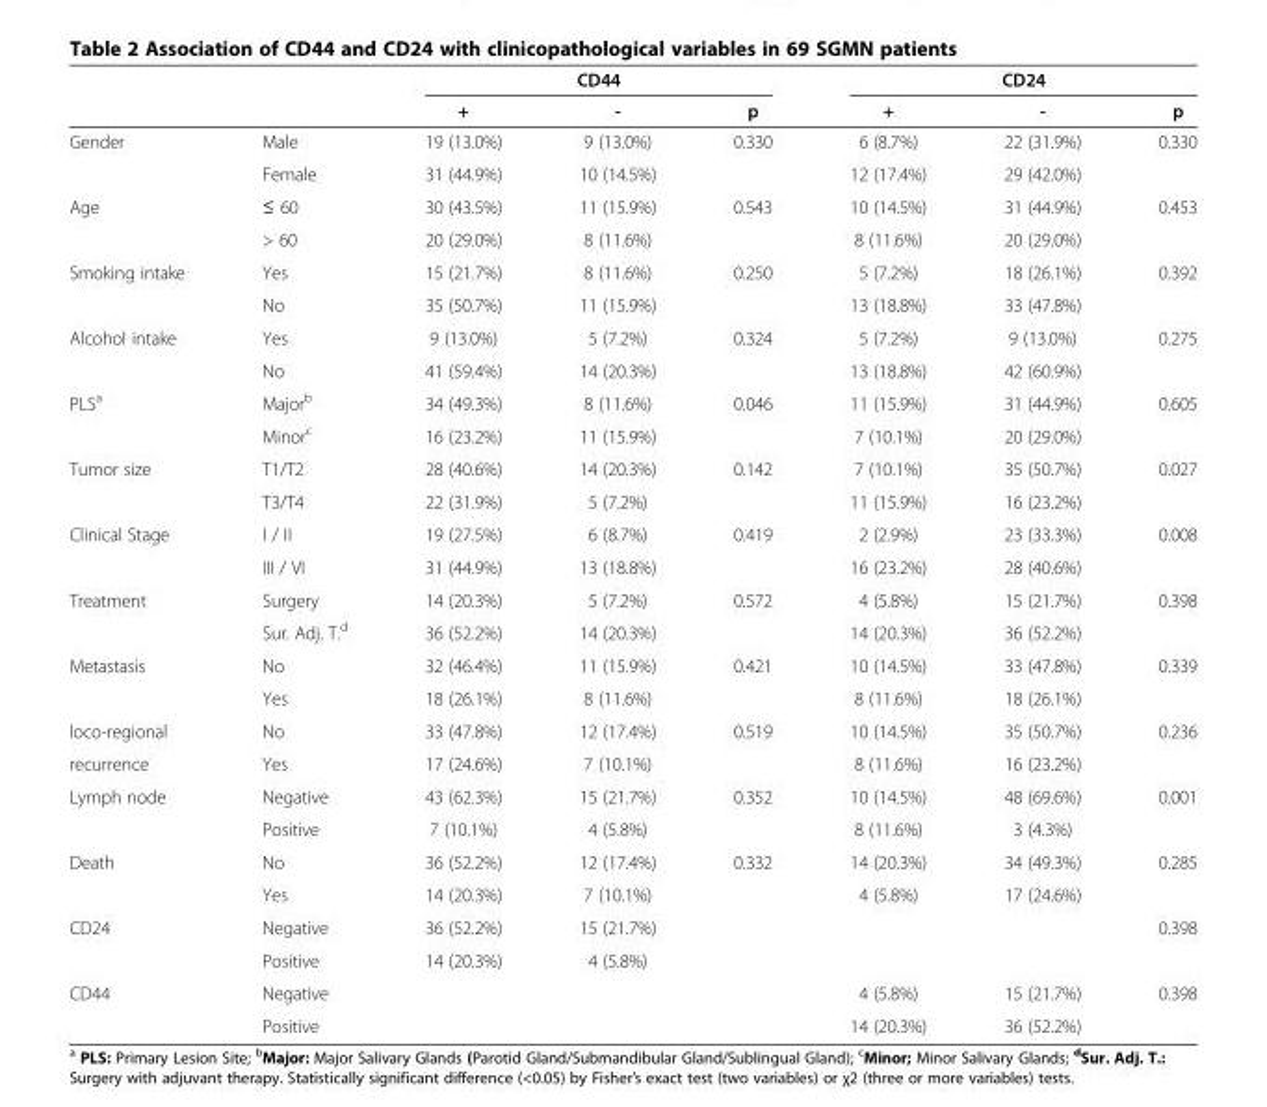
<table><thead><tr><td rowspan="2"></td><td rowspan="2"></td><td colspan="3">CD44</td><td colspan="3">CD24</td></tr><tr><td>+</td><td>-</td><td>p</td><td>+</td><td>-</td><td>p</td></tr></thead><tbody><tr><td rowspan="2">Gender</td><td>Male</td><td>19 (13.0%)</td><td>9 (13.0%)</td><td>0.330</td><td>6 (8.7%)</td><td>22 (31.9%)</td><td>0.330</td></tr><tr><td>Female</td><td>31 (44.9%)</td><td>10 (14.5%)</td><td></td><td>12 (17.4%)</td><td>29 (42.0%)</td><td></td></tr><tr><td rowspan="2">Age</td><td>≤ 60</td><td>30 (43.5%)</td><td>11 (15.9%)</td><td>0.543</td><td>10 (14.5%)</td><td>31 (44.9%)</td><td>0.453</td></tr><tr><td>&gt; 60</td><td>20 (29.0%)</td><td>8 (11.6%)</td><td></td><td>8 (11.6%)</td><td>20 (29.0%)</td><td></td></tr><tr><td rowspan="2">Smoking intake</td><td>Yes</td><td>15 (21.7%)</td><td>8 (11.6%)</td><td>0.250</td><td>5 (7.2%)</td><td>18 (26.1%)</td><td>0.392</td></tr><tr><td>No</td><td>35 (50.7%)</td><td>11 (15.9%)</td><td></td><td>13 (18.8%)</td><td>33 (47.8%)</td><td></td></tr><tr><td rowspan="2">Alcohol intake</td><td>Yes</td><td>9 (13.0%)</td><td>5 (7.2%)</td><td>0.324</td><td>5 (7.2%)</td><td>9 (13.0%)</td><td>0.275</td></tr><tr><td>No</td><td>41 (59.4%)</td><td>14 (20.3%)</td><td></td><td>13 (18.8%)</td><td>42 (60.9%)</td><td></td></tr><tr><td rowspan="2">PLS<sup>a</sup></td><td>Major<sup>b</sup></td><td>34 (49.3%)</td><td>8 (11.6%)</td><td>0.046</td><td>11 (15.9%)</td><td>31 (44.9%)</td><td>0.605</td></tr><tr><td>Minor<sup>c</sup></td><td>16 (23.2%)</td><td>11 (15.9%)</td><td></td><td>7 (10.1%)</td><td>20 (29.0%)</td><td></td></tr><tr><td rowspan="2">Tumor size</td><td>T1/T2</td><td>28 (40.6%)</td><td>14 (20.3%)</td><td>0.142</td><td>7 (10.1%)</td><td>35 (50.7%)</td><td>0.027</td></tr><tr><td>T3/T4</td><td>22 (31.9%)</td><td>5 (7.2%)</td><td></td><td>11 (15.9%)</td><td>16 (23.2%)</td><td></td></tr><tr><td rowspan="2">Clinical Stage</td><td>I / II</td><td>19 (27.5%)</td><td>6 (8.7%)</td><td>0.419</td><td>2 (2.9%)</td><td>23 (33.3%)</td><td>0.008</td></tr><tr><td>III / VI</td><td>31 (44.9%)</td><td>13 (18.8%)</td><td></td><td>16 (23.2%)</td><td>28 (40.6%)</td><td></td></tr><tr><td rowspan="2">Treatment</td><td>Surgery</td><td>14 (20.3%)</td><td>5 (7.2%)</td><td>0.572</td><td>4 (5.8%)</td><td>15 (21.7%)</td><td>0.398</td></tr><tr><td>Sur. Adj. T.<sup>d</sup></td><td>36 (52.2%)</td><td>14 (20.3%)</td><td></td><td>14 (20.3%)</td><td>36 (52.2%)</td><td></td></tr><tr><td rowspan="2">Metastasis</td><td>No</td><td>32 (46.4%)</td><td>11 (15.9%)</td><td>0.421</td><td>10 (14.5%)</td><td>33 (47.8%)</td><td>0.339</td></tr><tr><td>Yes</td><td>18 (26.1%)</td><td>8 (11.6%)</td><td></td><td>8 (11.6%)</td><td>18 (26.1%)</td><td></td></tr><tr><td>loco-regional</td><td>No</td><td>33 (47.8%)</td><td>12 (17.4%)</td><td>0.519</td><td>10 (14.5%)</td><td>35 (50.7%)</td><td>0.236</td></tr><tr><td>recurrence</td><td>Yes</td><td>17 (24.6%)</td><td>7 (10.1%)</td><td></td><td>8 (11.6%)</td><td>16 (23.2%)</td><td></td></tr><tr><td rowspan="2">Lymph node</td><td>Negative</td><td>43 (62.3%)</td><td>15 (21.7%)</td><td>0.352</td><td>10 (14.5%)</td><td>48 (69.6%)</td><td>0.001</td></tr><tr><td>Positive</td><td>7 (10.1%)</td><td>4 (5.8%)</td><td></td><td>8 (11.6%)</td><td>3 (4.3%)</td><td></td></tr><tr><td rowspan="2">Death</td><td>No</td><td>36 (52.2%)</td><td>12 (17.4%)</td><td>0.332</td><td>14 (20.3%)</td><td>34 (49.3%)</td><td>0.285</td></tr><tr><td>Yes</td><td>14 (20.3%)</td><td>7 (10.1%)</td><td></td><td>4 (5.8%)</td><td>17 (24.6%)</td><td></td></tr><tr><td rowspan="2">CD24</td><td>Negative</td><td>36 (52.2%)</td><td>15 (21.7%)</td><td></td><td></td><td></td><td>0.398</td></tr><tr><td>Positive</td><td>14 (20.3%)</td><td>4 (5.8%)</td><td></td><td></td><td></td><td></td></tr><tr><td rowspan="2">CD44</td><td>Negative</td><td></td><td></td><td></td><td>4 (5.8%)</td><td>15 (21.7%)</td><td>0.398</td></tr><tr><td>Positive</td><td></td><td></td><td></td><td>14 (20.3%)</td><td>36 (52.2%)</td><td></td></tr></tbody></table>